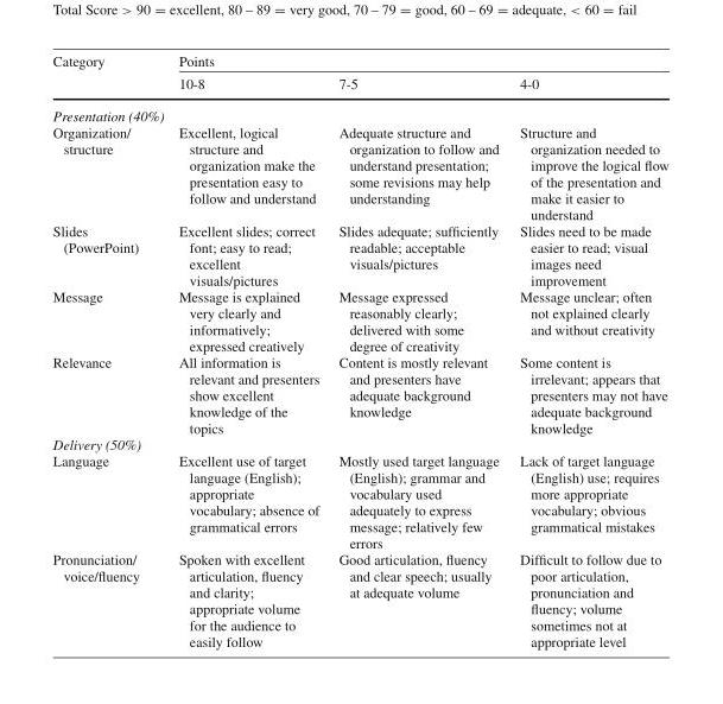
<table><thead><tr><td rowspan="2">Category</td><td colspan="3">Points</td></tr><tr><td>10-8</td><td>7-5</td><td>4-0</td></tr></thead><tbody><tr><td colspan="4">Presentation (40%)</td></tr><tr><td>Organization/ structure</td><td>Excellent, logical structure and organization make the presentation easy to follow and understand</td><td>Adequate structure and organization to follow and understand presentation; some revisions may help understanding</td><td>Structure and organization needed to improve the logical flow of the presentation and make it easier to understand</td></tr><tr><td>Slides (PowerPoint)</td><td>Excellent slides; correct font; easy to read; excellent visuals/pictures</td><td>Slides adequate; sufficiently readable; acceptable visuals/pictures</td><td>Slides need to be made easier to read; visual images need improvement</td></tr><tr><td>Message</td><td>Message is explained very clearly and informatively; expressed creatively</td><td>Message expressed reasonably clearly; delivered with some degree of creativity</td><td>Message unclear; often not explained clearly and without creativity</td></tr><tr><td>Relevance</td><td>All information is relevant and presenters show excellent knowledge of the topics</td><td>Content is mostly relevant and presenters have adequate background knowledge</td><td>Some content is irrelevant; appears that presenters may not have adequate background knowledge</td></tr><tr><td colspan="4">Delivery (50%)</td></tr><tr><td>Language</td><td>Excellent use of target language (English); appropriate vocabulary; absence of grammatical errors</td><td>Mostly used target language (English); grammar and vocabulary used adequately to express message; relatively few errors</td><td>Lack of target language (English) use; requires more appropriate vocabulary; obvious grammatical mistakes</td></tr><tr><td>Pronunciation/ voice/fluency</td><td>Spoken with excellent articulation, fluency and clarity; appropriate volume for the audience to easily follow</td><td>Good articulation, fluency and clear speech; usually at adequate volume</td><td>Difficult to follow due to poor articulation, pronunciation and fluency; volume sometimes not at appropriate level</td></tr></tbody></table>